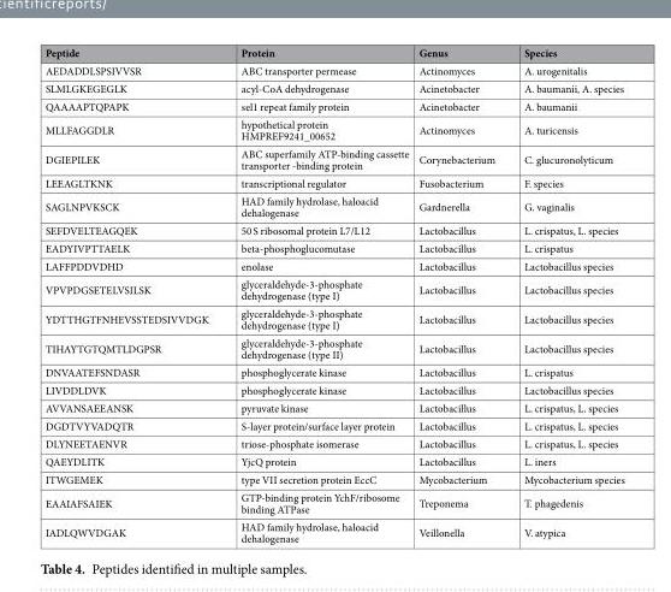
<table><thead><tr><td>Peptide</td><td>Protein</td><td>Genus</td><td>Species</td></tr></thead><tbody><tr><td>AEDADDLSPSIVVSR</td><td>ABC transporter permease</td><td>Actinomyces</td><td>A. urogenitalis</td></tr><tr><td>SLMLGKEGEGLK</td><td>acyl-CoA dehydrogenase</td><td>Acinetobacter</td><td>A. baumanii, A. species</td></tr><tr><td>QAAAAPTQPAPK</td><td>sel1 repeat family protein</td><td>Acinetobacter</td><td>A. baumanii</td></tr><tr><td>MLLFAGGDLR</td><td>hypothetical protein HMPREF9241_00652</td><td>Actinomyces</td><td>A. turicensis</td></tr><tr><td>DGIEPILEK</td><td>ABC superfamily ATP-binding cassette transporter -binding protein</td><td>Corynebacterium</td><td>C. glucuronolyticum</td></tr><tr><td>LEEAGLTKNK</td><td>transcriptional regulator</td><td>Fusobacterium</td><td>F. species</td></tr><tr><td>SAGLNPVKSCK</td><td>HAD family hydrolase, haloacid dehalogenase</td><td>Gardnerella</td><td>G. vaginalis</td></tr><tr><td>SEFDVELTEAGQEK</td><td>50 S ribosomal protein L7/L12</td><td>Lactobacillus</td><td>L. crispatus, L. species</td></tr><tr><td>EADYIVPTTAELK</td><td>beta-phosphoglucomutase</td><td>Lactobacillus</td><td>L. crispatus</td></tr><tr><td>LAFFPDDVDHD</td><td>enolase</td><td>Lactobacillus</td><td>Lactobacillus species</td></tr><tr><td>VPVPDGSETELVSILSK</td><td>glyceraldehyde-3-phosphate dehydrogenase (type I)</td><td>Lactobacillus</td><td>Lactobacillus species</td></tr><tr><td>YDTTHGTFNHEVSSTEDSIVVDGK</td><td>glyceraldehyde-3-phosphate dehydrogenase (type I)</td><td>Lactobacillus</td><td>Lactobacillus species</td></tr><tr><td>TIHAYTGTQMTLDGPSR</td><td>glyceraldehyde-3-phosphate dehydrogenase (type II)</td><td>Lactobacillus</td><td>Lactobacillus species</td></tr><tr><td>DNVAATEFSNDASR</td><td>phosphoglycerate kinase</td><td>Lactobacillus</td><td>L. crispatus</td></tr><tr><td>LIVDDLDVK</td><td>phosphoglycerate kinase</td><td>Lactobacillus</td><td>Lactobacillus species</td></tr><tr><td>AVVANSAEEANSK</td><td>pyruvate kinase</td><td>Lactobacillus</td><td>L. crispatus, L. species</td></tr><tr><td>DGDTVYVADQTR</td><td>S-layer protein/surface layer protein</td><td>Lactobacillus</td><td>L. crispatus, L. species</td></tr><tr><td>DLYNEETAENVR</td><td>triose-phosphate isomerase</td><td>Lactobacillus</td><td>L. crispatus, L. species</td></tr><tr><td>QAEYDLITK</td><td>YjcQ protein</td><td>Lactobacillus</td><td>L. iners</td></tr><tr><td>ITWGEMEK</td><td>type VII secretion protein EccC</td><td>Mycobacterium</td><td>Mycobacterium species</td></tr><tr><td>EAAIAFSAIEK</td><td>GTP-binding protein YchF/ribosome binding ATPase</td><td>Treponema</td><td>T. phagedenis</td></tr><tr><td>IADLQWVDGAK</td><td>HAD family hydrolase, haloacid dehalogenase</td><td>Veillonella</td><td>V. atypica</td></tr></tbody></table>